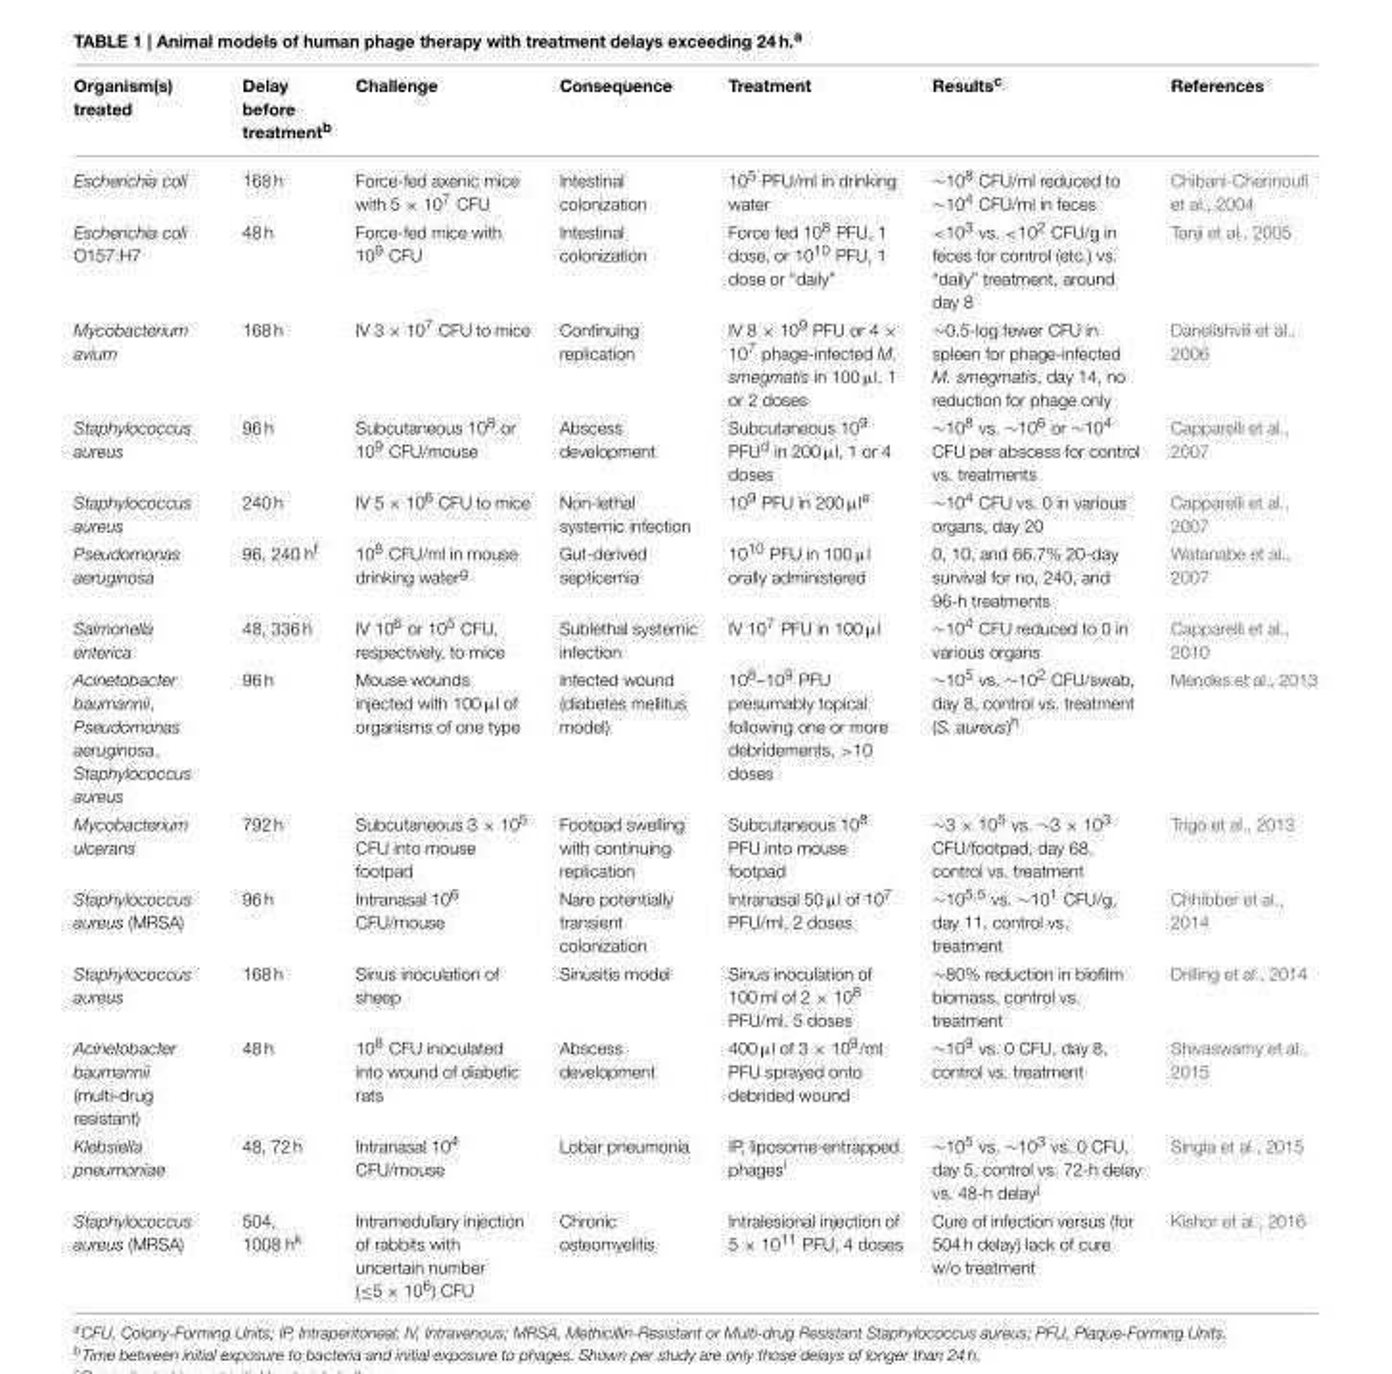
<table><thead><tr><td>Organism(s) treated</td><td>Delay before treatment<sup>b</sup></td><td>Challenge</td><td>Consequence</td><td>Treatment</td><td>Results<sup>c</sup></td><td>References</td></tr></thead><tbody><tr><td>Escherichia coli</td><td>168 h</td><td>Force-fed axenic mice with 5 × 10<sup>7</sup> CFU</td><td>Intestinal colonization</td><td>10<sup>5</sup> PFU/ml in drinking water</td><td>∼108 CFU/ml reduced to ∼104 CFU/ml in feces</td><td>Chibani-Chennoufi et al., 2004</td></tr><tr><td>Escherichia coli O157:H7</td><td>48 h</td><td>Force-fed mice with 10<sup>9</sup> CFU</td><td>Intestinal colonization</td><td>Force fed 10<sup>8</sup> PFU, 1 dose, or 10<sup>10</sup> PFU, 1 dose or “daily”</td><td>&lt;10<sup>3</sup> vs. &lt;10<sup>2</sup> CFU/g in feces for control (etc.) vs. “daily” treatment, around day 8</td><td>Tanji et al., 2005</td></tr><tr><td>Mycobacterium avium</td><td>168 h</td><td>IV 3 × 10<sup>7</sup> CFU to mice</td><td>Continuing replication</td><td>IV 8 × 10<sup>9</sup> PFU or 4 × 10<sup>7</sup> phage-infected M. smegmatis in 100 µl, 1 or 2 doses</td><td>∼0.5-log fewer CFU in spleen for phage-infected M. smegmatis, day 14, no reduction for phage only</td><td>Danelishvili et al., 2006</td></tr><tr><td>Staphylococcus aureus</td><td>96 h</td><td>Subcutaneous 10<sup>8</sup> or 10<sup>9</sup> CFU/mouse</td><td>Abscess development</td><td>Subcutaneous 10<sup>9</sup> PFU<sup>d</sup> in 200 µl, 1 or 4 doses</td><td>∼108 vs. ∼106 or ∼104 CFU per abscess for control vs. treatments</td><td>Capparelli et al., 2007</td></tr><tr><td>Staphylococcus aureus</td><td>240 h</td><td>IV 5 × 10<sup>6</sup> CFU to mice</td><td>Non-lethal systemic infection</td><td>10<sup>9</sup> PFU in 200 µl<sup>e</sup></td><td>∼104 CFU vs. 0 in various organs, day 20</td><td>Capparelli et al., 2007</td></tr><tr><td>Pseudomonas aeruginosa</td><td>96, 240 h<sup>f</sup></td><td>10<sup>8</sup> CFU/ml in mouse drinking water<sup>g</sup></td><td>Gut-derived septicemia</td><td>10<sup>10</sup> PFU in 100 µl orally administered</td><td>0, 10, and 66.7% 20-day survival for no, 240, and 96-h treatments</td><td>Watanabe et al., 2007</td></tr><tr><td>Salmonella enterica</td><td>48, 336 h</td><td>IV 10<sup>6</sup> or 10<sup>5</sup> CFU, respectively, to mice</td><td>Sublethal systemic infection</td><td>IV 10<sup>7</sup> PFU in 100 µl</td><td>∼104 CFU reduced to 0 in various organs</td><td>Capparelli et al., 2010</td></tr><tr><td>Acinetobacter baumannii, Pseudomonas aeruginosa, Staphylococcus aureus</td><td>96 h</td><td>Mouse wounds injected with 100 µl of organisms of one type</td><td>Infected wound (diabetes mellitus model)</td><td>10<sup>8</sup>–10<sup>9</sup> PFU presumably topical following one or more debridements, &gt;10 doses</td><td>∼105 vs. ∼102 CFU/swab, day 8, control vs. treatment (S. aureus)h</td><td>Mendes et al., 2013</td></tr><tr><td>Mycobacterium ulcerans</td><td>792 h</td><td>Subcutaneous 3 × 10<sup>5</sup> CFU into mouse footpad</td><td>Footpad swelling with continuing replication</td><td>Subcutaneous 10<sup>8</sup> PFU into mouse footpad</td><td>∼3 × 105 vs. ∼3 × 103 CFU/footpad, day 68, control vs. treatment</td><td>Trigo et al., 2013</td></tr><tr><td>Staphylococcus aureus (MRSA)</td><td>96 h</td><td>Intranasal 10<sup>6</sup> CFU/mouse</td><td>Nare potentially transient colonization</td><td>Intranasal 50 µl of 10<sup>7</sup> PFU/ml, 2 doses</td><td>∼105.5 vs. ∼101 CFU/g, day 11, control vs. treatment</td><td>Chhibber et al., 2014</td></tr><tr><td>Staphylococcus aureus</td><td>168 h</td><td>Sinus inoculation of sheep</td><td>Sinusitis model</td><td>Sinus inoculation of 100 ml of 2 × 10<sup>8</sup> PFU/ml, 5 doses</td><td>∼80% reduction in biofilm biomass, control vs. treatment</td><td>Drilling et al., 2014</td></tr><tr><td>Acinetobacter baumannii (multi-drug resistant)</td><td>48 h</td><td>10<sup>8</sup> CFU inoculated into wound of diabetic rats</td><td>Abscess development</td><td>400 µl of 3 × 10<sup>9</sup>/ml PFU sprayed onto debrided wound</td><td>∼109 vs. 0 CFU, day 8, control vs. treatment</td><td>Shivaswamy et al., 2015</td></tr><tr><td>Klebsiella pneumoniae</td><td>48, 72 h</td><td>Intranasal 10<sup>4</sup> CFU/mouse</td><td>Lobar pneumonia</td><td>IP, liposome-entrapped phages<sup>i</sup></td><td>∼105 vs. ∼103 vs. 0 CFU, day 5, control vs. 72-h delay vs. 48-h delayj</td><td>Singla et al., 2015</td></tr><tr><td>Staphylococcus aureus (MRSA)</td><td>504, 1008 h<sup>k</sup></td><td>Intramedullary injection of rabbits with uncertain number (≤5 × 10<sup>6</sup>) CFU</td><td>Chronic osteomyelitis</td><td>Intralesional injection of 5 × 10<sup>11</sup> PFU, 4 doses</td><td>Cure of infection versus (for 504 h delay) lack of cure w/o treatment</td><td>Kishor et al., 2016</td></tr></tbody></table>